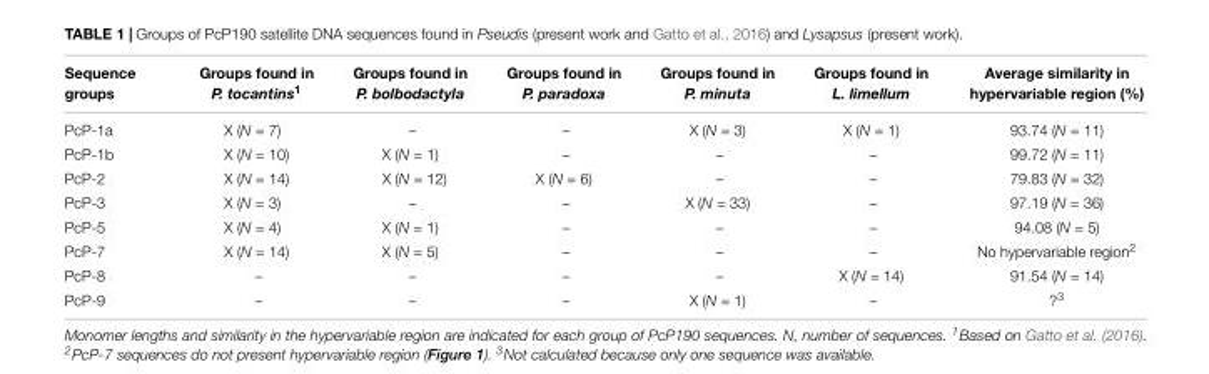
<table><thead><tr><td>Sequence groups</td><td>Groups found in P. tocantins<sup>1</sup></td><td>Groups found in P. bolbodactyla</td><td>Groups found in P. paradoxa</td><td>Groups found in P. minuta</td><td>Groups found in L. limellum</td><td>Average similarity in hypervariable region (%)</td></tr></thead><tbody><tr><td>PcP-1a</td><td>X (N = 7)</td><td>–</td><td>–</td><td>X (N = 3)</td><td>X (N = 1)</td><td>93.74 (N = 11)</td></tr><tr><td>PcP-1b</td><td>X (N = 10)</td><td>X (N = 1)</td><td>–</td><td>–</td><td>–</td><td>99.72 (N = 11)</td></tr><tr><td>PcP-2</td><td>X (N = 14)</td><td>X (N = 12)</td><td>X (N = 6)</td><td>–</td><td>–</td><td>79.83 (N = 32)</td></tr><tr><td>PcP-3</td><td>X (N = 3)</td><td>–</td><td>–</td><td>X (N = 33)</td><td>–</td><td>97.19 (N = 36)</td></tr><tr><td>PcP-5</td><td>X (N = 4)</td><td>X (N = 1)</td><td>–</td><td>–</td><td>–</td><td>94.08 (N = 5)</td></tr><tr><td>PcP-7</td><td>X (N = 14)</td><td>X (N = 5)</td><td>–</td><td>–</td><td>–</td><td>No hypervariable region<sup>2</sup></td></tr><tr><td>PcP-8</td><td>–</td><td>–</td><td>–</td><td>–</td><td>X (N = 14)</td><td>91.54 (N = 14)</td></tr><tr><td>PcP-9</td><td>–</td><td>–</td><td>–</td><td>X (N = 1)</td><td>–</td><td>?<sup>3</sup></td></tr></tbody></table>